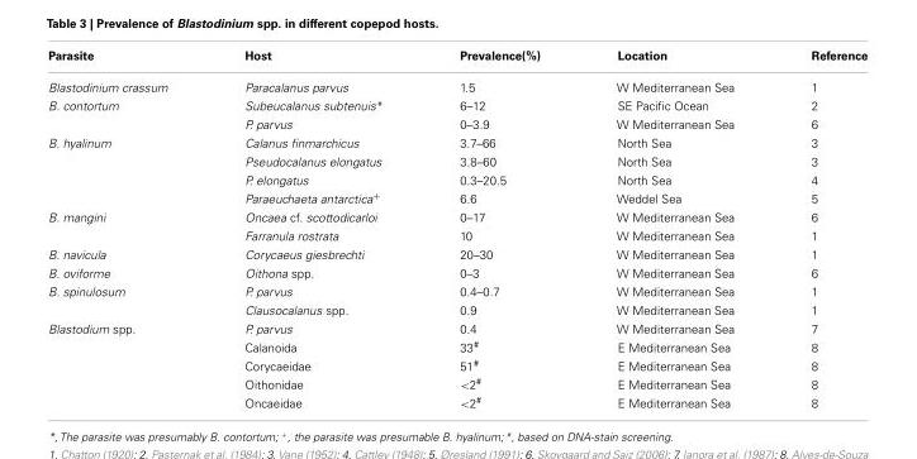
<table><thead><tr><td>Parasite</td><td>Host</td><td>Prevalence(%)</td><td>Location</td><td>Reference</td></tr></thead><tbody><tr><td>Blastodinium crassum</td><td>Paracalanus parvus</td><td>1.5</td><td>W Mediterranean Sea</td><td>1</td></tr><tr><td rowspan="2">B. contortum</td><td>Subeucalanus subtenuis*</td><td>6–12</td><td>SE Pacific Ocean</td><td>2</td></tr><tr><td>P. parvus</td><td>0–3.9</td><td>W Mediterranean Sea</td><td>6</td></tr><tr><td rowspan="4">B. hyalinum</td><td>Calanus finmarchicus</td><td>3.7–66</td><td>North Sea</td><td>3</td></tr><tr><td>Pseudocalanus elongatus</td><td>3.8–60</td><td>North Sea</td><td>3</td></tr><tr><td>P. elongatus</td><td>0.3–20.5</td><td>North Sea</td><td>4</td></tr><tr><td>Paraeuchaeta antarctica<sup>+</sup></td><td>6.6</td><td>Weddel Sea</td><td>5</td></tr><tr><td rowspan="2">B. mangini</td><td>Oncaea cf. scottodicarloi</td><td>0–17</td><td>W Mediterranean Sea</td><td>6</td></tr><tr><td>Farranula rostrata</td><td>10</td><td>W Mediterranean Sea</td><td>1</td></tr><tr><td>B. navicula</td><td>Corycaeus giesbrechti</td><td>20–30</td><td>W Mediterranean Sea</td><td>1</td></tr><tr><td>B. oviforme</td><td>Oithona spp.</td><td>0–3</td><td>W Mediterranean Sea</td><td>6</td></tr><tr><td rowspan="2">B. spinulosum</td><td>P. parvus</td><td>0.4–0.7</td><td>W Mediterranean Sea</td><td>1</td></tr><tr><td>Clausocalanus spp.</td><td>0.9</td><td>W Mediterranean Sea</td><td>1</td></tr><tr><td rowspan="5">Blastodium spp.</td><td>P. parvus</td><td>0.4</td><td>W Mediterranean Sea</td><td>7</td></tr><tr><td>Calanoida</td><td>33<sup>#</sup></td><td>E Mediterranean Sea</td><td>8</td></tr><tr><td>Corycaeidae</td><td>51<sup>#</sup></td><td>E Mediterranean Sea</td><td>8</td></tr><tr><td>Oithonidae</td><td>&lt;2<sup>#</sup></td><td>E Mediterranean Sea</td><td>8</td></tr><tr><td>Oncaeidae</td><td>&lt;2<sup>#</sup></td><td>E Mediterranean Sea</td><td>8</td></tr></tbody></table>